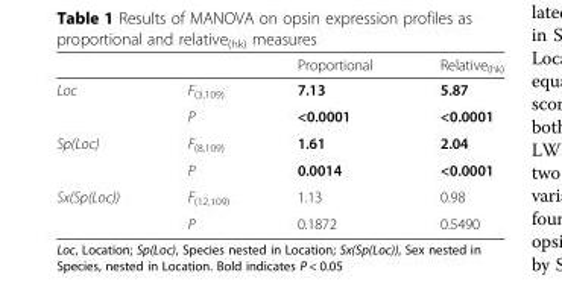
<table><thead><tr><td></td><td></td><td>Proportional</td><td>Relative<sub>(hk)</sub></td></tr></thead><tbody><tr><td rowspan="2">Loc</td><td>F<sub>(3,109)</sub></td><td>7.13</td><td>5.87</td></tr><tr><td>P</td><td>&lt;0.0001</td><td>&lt;0.0001</td></tr><tr><td rowspan="2">Sp(Loc)</td><td>F<sub>(8,109)</sub></td><td>1.61</td><td>2.04</td></tr><tr><td>P</td><td>0.0014</td><td>&lt;0.0001</td></tr><tr><td rowspan="2">Sx(Sp(Loc))</td><td>F<sub>(12,109)</sub></td><td>1.13</td><td>0.98</td></tr><tr><td>P</td><td>0.1872</td><td>0.5490</td></tr></tbody></table>